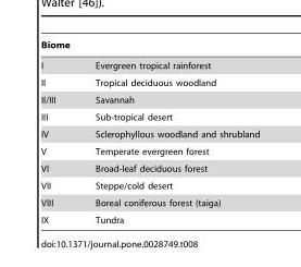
<table><thead><tr><td>Biome</td><td></td></tr></thead><tbody><tr><td>I</td><td>Evergreen tropical rainforest</td></tr><tr><td>II</td><td>Tropical deciduous woodland</td></tr><tr><td>II/III</td><td>Savannah</td></tr><tr><td>III</td><td>Sub-tropical desert</td></tr><tr><td>IV</td><td>Sclerophyllous woodland and shrubland</td></tr><tr><td>V</td><td>Temperate evergreen forest</td></tr><tr><td>VI</td><td>Broad-leaf deciduous forest</td></tr><tr><td>VII</td><td>Steppe/cold desert</td></tr><tr><td>VIII</td><td>Boreal coniferous forest (taiga)</td></tr><tr><td>IX</td><td>Tundra</td></tr></tbody></table>